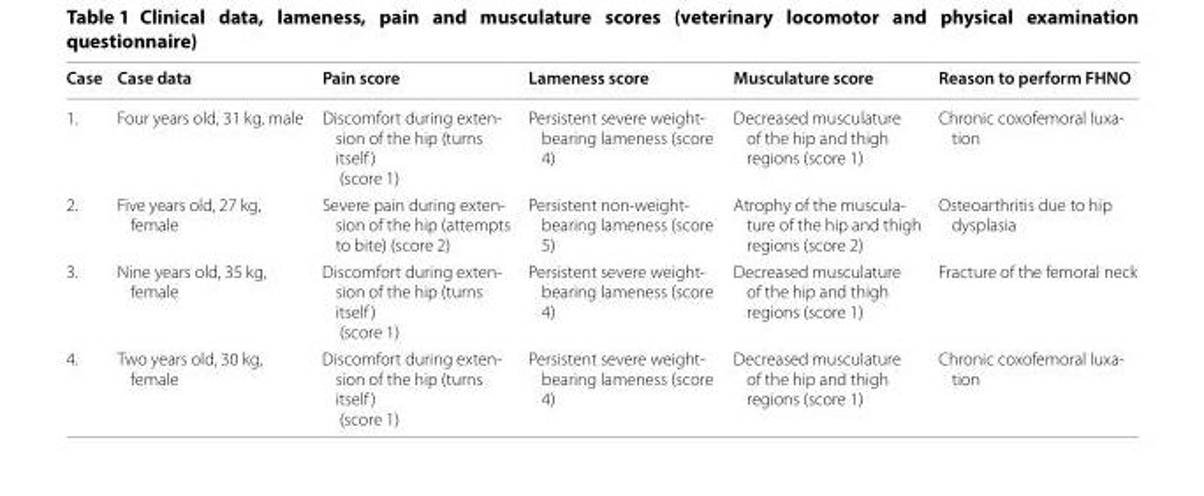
<table><thead><tr><td>Case</td><td>Case data</td><td>Pain score</td><td>Lameness score</td><td>Musculature score</td><td>Reason to perform FHNO</td></tr></thead><tbody><tr><td>1.</td><td>Four years old, 31 kg, male</td><td>Discomfort during exten- sion of the hip (turns itself) (score 1)</td><td>Persistent severe weight- bearing lameness (score 4)</td><td>Decreased musculature of the hip and thigh regions (score 1)</td><td>Chronic coxofemoral luxa- tion</td></tr><tr><td>2.</td><td>Five years old, 27 kg, female</td><td>Severe pain during exten- sion of the hip (attempts to bite) (score 2)</td><td>Persistent non-weight- bearing lameness (score 5)</td><td>Atrophy of the muscula- ture of the hip and thigh regions (score 2)</td><td>Osteoarthritis due to hip dysplasia</td></tr><tr><td>3.</td><td>Nine years old, 35 kg, female</td><td>Discomfort during exten- sion of the hip (turns itself) (score 1)</td><td>Persistent severe weight- bearing lameness (score 4)</td><td>Decreased musculature of the hip and thigh regions (score 1)</td><td>Fracture of the femoral neck</td></tr><tr><td>4.</td><td>Two years old, 30 kg, female</td><td>Discomfort during exten- sion of the hip (turns itself) (score 1)</td><td>Persistent severe weight- bearing lameness (score 4)</td><td>Decreased musculature of the hip and thigh regions (score 1)</td><td>Chronic coxofemoral luxa- tion</td></tr></tbody></table>